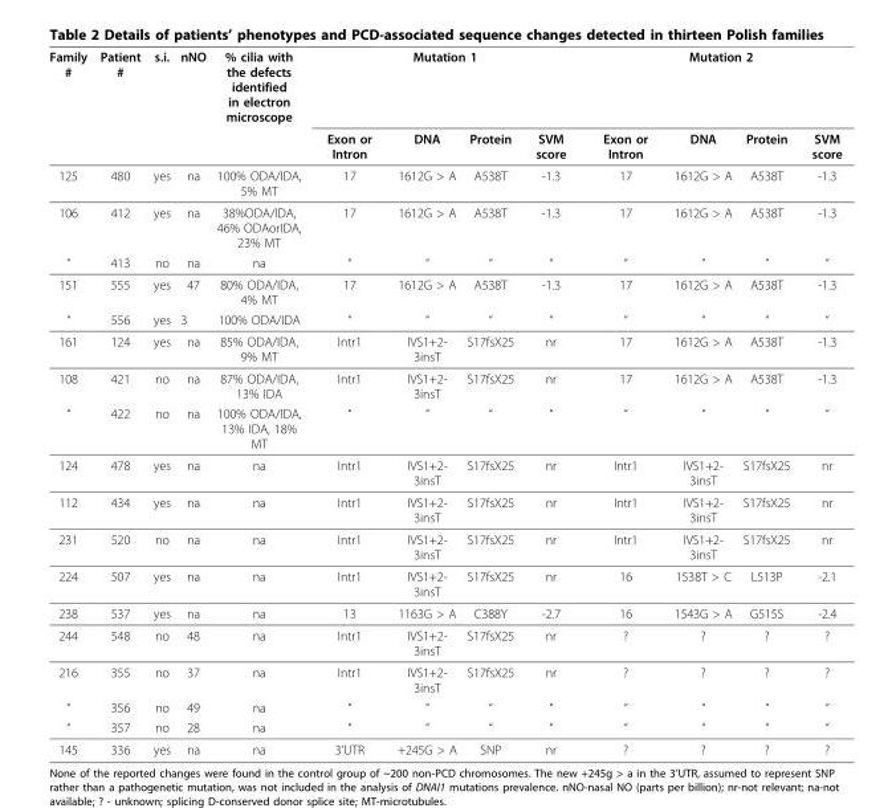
<table><thead><tr><td rowspan="2">Family #</td><td rowspan="2">Patient #</td><td rowspan="2">s.i.</td><td rowspan="2">nNO</td><td rowspan="2">% cilia with the defects identified in electron microscope</td><td colspan="4">Mutation 1</td><td colspan="4">Mutation 2</td></tr><tr><td>Exon or Intron</td><td>DNA</td><td>Protein</td><td>SVM score</td><td>Exon or Intron</td><td>DNA</td><td>Protein</td><td>SVM score</td></tr></thead><tbody><tr><td>125</td><td>480</td><td>yes</td><td>na</td><td>100% ODA/IDA, 5% MT</td><td>17</td><td>1612G &gt; A</td><td>A538T</td><td>-1.3</td><td>17</td><td>1612G &gt; A</td><td>A538T</td><td>-1.3</td></tr><tr><td>106</td><td>412</td><td>yes</td><td>na</td><td>38%ODA/IDA, 46% ODAorIDA, 23% MT</td><td>17</td><td>1612G &gt; A</td><td>A538T</td><td>-1.3</td><td>17</td><td>1612G &gt; A</td><td>A538T</td><td>-1.3</td></tr><tr><td>“</td><td>413</td><td>no</td><td>na</td><td>na</td><td>“</td><td>“</td><td>“</td><td>“</td><td>“</td><td>“</td><td>“</td><td>“</td></tr><tr><td>151</td><td>555</td><td>yes</td><td>47</td><td>80% ODA/IDA, 4% MT</td><td>17</td><td>1612G &gt; A</td><td>A538T</td><td>-1.3</td><td>17</td><td>1612G &gt; A</td><td>A538T</td><td>-1.3</td></tr><tr><td>“</td><td>556</td><td>yes</td><td>3</td><td>100% ODA/IDA</td><td>“</td><td>“</td><td>“</td><td>“</td><td>“</td><td>“</td><td>“</td><td>“</td></tr><tr><td>161</td><td>124</td><td>yes</td><td>na</td><td>85% ODA/IDA, 9% MT</td><td>Intr1</td><td>IVS1+2- 3insT</td><td>S17fsX25</td><td>nr</td><td>17</td><td>1612G &gt; A</td><td>A538T</td><td>-1.3</td></tr><tr><td>108</td><td>421</td><td>no</td><td>na</td><td>87% ODA/IDA, 13% IDA</td><td>Intr1</td><td>IVS1+2- 3insT</td><td>S17fsX25</td><td>nr</td><td>17</td><td>1612G &gt; A</td><td>A538T</td><td>-1.3</td></tr><tr><td>“</td><td>422</td><td>no</td><td>na</td><td>100% ODA/IDA, 13% IDA, 18% MT</td><td>“</td><td>“</td><td>“</td><td>“</td><td>“</td><td>“</td><td>“</td><td>“</td></tr><tr><td>124</td><td>478</td><td>yes</td><td>na</td><td>na</td><td>Intr1</td><td>IVS1+2- 3insT</td><td>S17fsX25</td><td>nr</td><td>Intr1</td><td>IVS1+2- 3insT</td><td>S17fsX25</td><td>nr</td></tr><tr><td>112</td><td>434</td><td>yes</td><td>na</td><td>na</td><td>Intr1</td><td>IVS1+2- 3insT</td><td>S17fsX25</td><td>nr</td><td>Intr1</td><td>IVS1+2- 3insT</td><td>S17fsX25</td><td>nr</td></tr><tr><td>231</td><td>520</td><td>no</td><td>na</td><td>na</td><td>Intr1</td><td>IVS1+2- 3insT</td><td>S17fsX25</td><td>nr</td><td>Intr1</td><td>IVS1+2- 3insT</td><td>S17fsX25</td><td>nr</td></tr><tr><td>224</td><td>507</td><td>yes</td><td>na</td><td>na</td><td>Intr1</td><td>IVS1+2- 3insT</td><td>S17fsX25</td><td>nr</td><td>16</td><td>1538T &gt; C</td><td>L513P</td><td>-2.1</td></tr><tr><td>238</td><td>537</td><td>yes</td><td>na</td><td>na</td><td>13</td><td>1163G &gt; A</td><td>C388Y</td><td>-2.7</td><td>16</td><td>1543G &gt; A</td><td>G515S</td><td>-2.4</td></tr><tr><td>244</td><td>548</td><td>no</td><td>48</td><td>na</td><td>Intr1</td><td>IVS1+2- 3insT</td><td>S17fsX25</td><td>nr</td><td>?</td><td>?</td><td>?</td><td>?</td></tr><tr><td>216</td><td>355</td><td>no</td><td>37</td><td>na</td><td>Intr1</td><td>IVS1+2- 3insT</td><td>S17fsX25</td><td>nr</td><td>?</td><td>?</td><td>?</td><td>?</td></tr><tr><td>“</td><td>356</td><td>no</td><td>49</td><td>na</td><td>“</td><td>“</td><td>“</td><td>“</td><td>“</td><td>“</td><td>“</td><td>“</td></tr><tr><td>“</td><td>357</td><td>no</td><td>28</td><td>na</td><td>“</td><td>“</td><td>“</td><td>“</td><td>“</td><td>“</td><td>“</td><td>“</td></tr><tr><td>145</td><td>336</td><td>yes</td><td>na</td><td>na</td><td>3’UTR</td><td>+245G &gt; A</td><td>SNP</td><td>nr</td><td>?</td><td>?</td><td>?</td><td>?</td></tr></tbody></table>